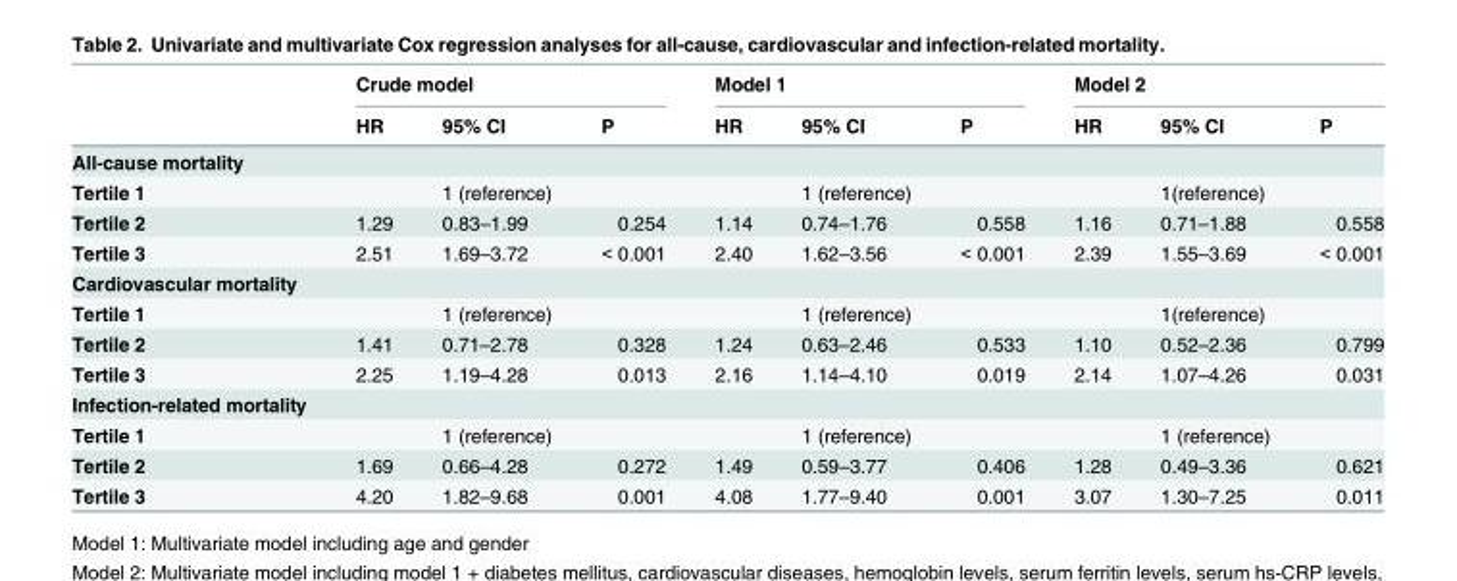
<table><thead><tr><td rowspan="2"></td><td colspan="3">Crude model</td><td colspan="3">Model 1</td><td colspan="3">Model 2</td></tr><tr><td>HR</td><td>95% CI</td><td>P</td><td>HR</td><td>95% CI</td><td>P</td><td>HR</td><td>95% CI</td><td>P</td></tr></thead><tbody><tr><td colspan="10">All-cause mortality</td></tr><tr><td>Tertile 1</td><td></td><td>1 (reference)</td><td></td><td></td><td>1 (reference)</td><td></td><td></td><td>1(reference)</td><td></td></tr><tr><td>Tertile 2</td><td>1.29</td><td>0.83–1.99</td><td>0.254</td><td>1.14</td><td>0.74–1.76</td><td>0.558</td><td>1.16</td><td>0.71–1.88</td><td>0.558</td></tr><tr><td>Tertile 3</td><td>2.51</td><td>1.69–3.72</td><td>&lt; 0.001</td><td>2.40</td><td>1.62–3.56</td><td>&lt; 0.001</td><td>2.39</td><td>1.55–3.69</td><td>&lt; 0.001</td></tr><tr><td colspan="10">Cardiovascular mortality</td></tr><tr><td>Tertile 1</td><td></td><td>1 (reference)</td><td></td><td></td><td>1 (reference)</td><td></td><td></td><td>1(reference)</td><td></td></tr><tr><td>Tertile 2</td><td>1.41</td><td>0.71–2.78</td><td>0.328</td><td>1.24</td><td>0.63–2.46</td><td>0.533</td><td>1.10</td><td>0.52–2.36</td><td>0.799</td></tr><tr><td>Tertile 3</td><td>2.25</td><td>1.19–4.28</td><td>0.013</td><td>2.16</td><td>1.14–4.10</td><td>0.019</td><td>2.14</td><td>1.07–4.26</td><td>0.031</td></tr><tr><td colspan="10">Infection-related mortality</td></tr><tr><td>Tertile 1</td><td></td><td>1 (reference)</td><td></td><td></td><td>1 (reference)</td><td></td><td></td><td>1 (reference)</td><td></td></tr><tr><td>Tertile 2</td><td>1.69</td><td>0.66–4.28</td><td>0.272</td><td>1.49</td><td>0.59–3.77</td><td>0.406</td><td>1.28</td><td>0.49–3.36</td><td>0.621</td></tr><tr><td>Tertile 3</td><td>4.20</td><td>1.82–9.68</td><td>0.001</td><td>4.08</td><td>1.77–9.40</td><td>0.001</td><td>3.07</td><td>1.30–7.25</td><td>0.011</td></tr></tbody></table>